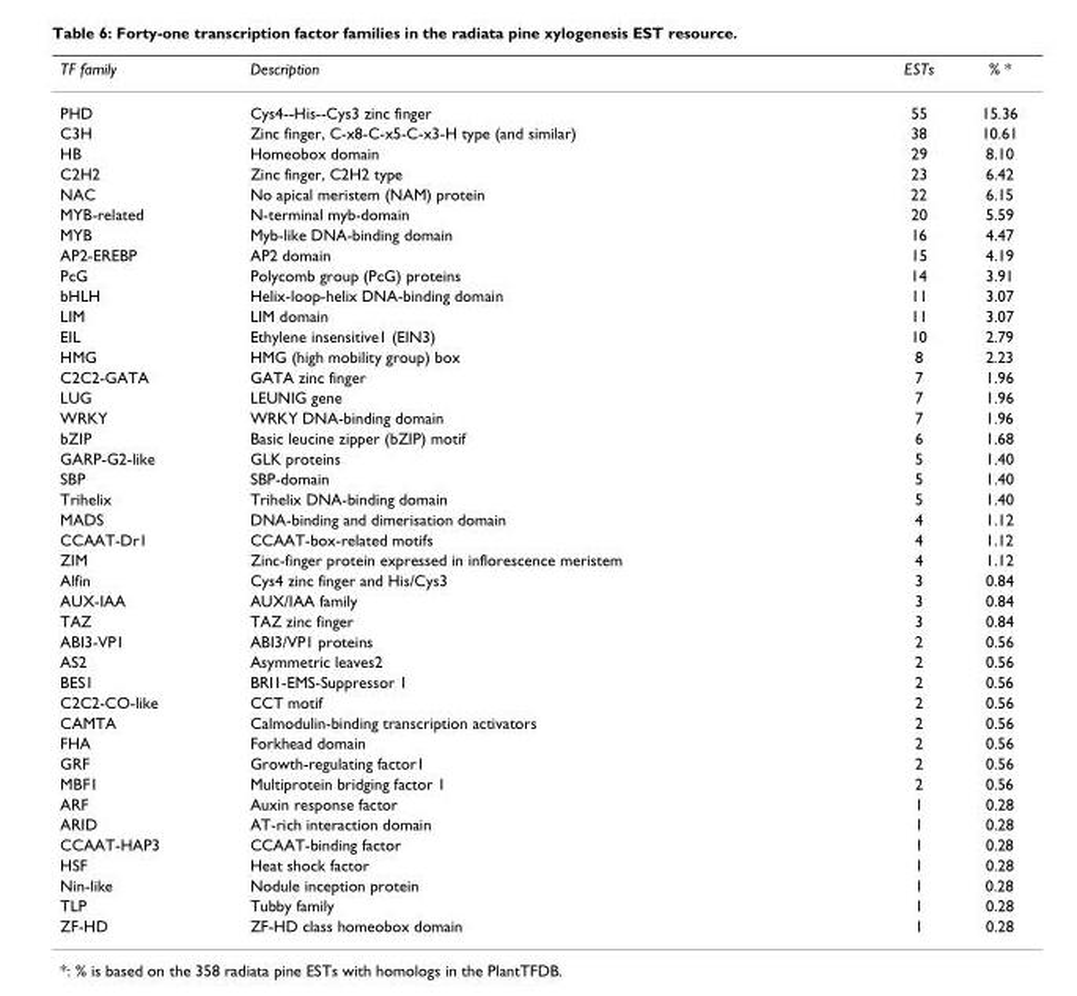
<table><thead><tr><td>TF family</td><td>Description</td><td>ESTs</td><td>% *</td></tr></thead><tbody><tr><td>PHD</td><td>Cys4--His--Cys3 zinc finger</td><td>55</td><td>15.36</td></tr><tr><td>C3H</td><td>Zinc finger, C-x8-C-x5-C-x3-H type (and similar)</td><td>38</td><td>10.61</td></tr><tr><td>HB</td><td>Homeobox domain</td><td>29</td><td>8.10</td></tr><tr><td>C2H2</td><td>Zinc finger, C2H2 type</td><td>23</td><td>6.42</td></tr><tr><td>NAC</td><td>No apical meristem (NAM) protein</td><td>22</td><td>6.15</td></tr><tr><td>MYB-related</td><td>N-terminal myb-domain</td><td>20</td><td>5.59</td></tr><tr><td>MYB</td><td>Myb-like DNA-binding domain</td><td>16</td><td>4.47</td></tr><tr><td>AP2-EREBP</td><td>AP2 domain</td><td>15</td><td>4.19</td></tr><tr><td>PcG</td><td>Polycomb group (PcG) proteins</td><td>14</td><td>3.91</td></tr><tr><td>bHLH</td><td>Helix-loop-helix DNA-binding domain</td><td>11</td><td>3.07</td></tr><tr><td>LIM</td><td>LIM domain</td><td>11</td><td>3.07</td></tr><tr><td>EIL</td><td>Ethylene insensitive1 (EIN3)</td><td>10</td><td>2.79</td></tr><tr><td>HMG</td><td>HMG (high mobility group) box</td><td>8</td><td>2.23</td></tr><tr><td>C2C2-GATA</td><td>GATA zinc finger</td><td>7</td><td>1.96</td></tr><tr><td>LUG</td><td>LEUNIG gene</td><td>7</td><td>1.96</td></tr><tr><td>WRKY</td><td>WRKY DNA-binding domain</td><td>7</td><td>1.96</td></tr><tr><td>bZIP</td><td>Basic leucine zipper (bZIP) motif</td><td>6</td><td>1.68</td></tr><tr><td>GARP-G2-like</td><td>GLK proteins</td><td>5</td><td>1.40</td></tr><tr><td>SBP</td><td>SBP-domain</td><td>5</td><td>1.40</td></tr><tr><td>Trihelix</td><td>Trihelix DNA-binding domain</td><td>5</td><td>1.40</td></tr><tr><td>MADS</td><td>DNA-binding and dimerisation domain</td><td>4</td><td>1.12</td></tr><tr><td>CCAAT-Dr1</td><td>CCAAT-box-related motifs</td><td>4</td><td>1.12</td></tr><tr><td>ZIM</td><td>Zinc-finger protein expressed in inflorescence meristem</td><td>4</td><td>1.12</td></tr><tr><td>Alfin</td><td>Cys4 zinc finger and His/Cys3</td><td>3</td><td>0.84</td></tr><tr><td>AUX-IAA</td><td>AUX/IAA family</td><td>3</td><td>0.84</td></tr><tr><td>TAZ</td><td>TAZ zinc finger</td><td>3</td><td>0.84</td></tr><tr><td>ABI3-VP1</td><td>ABI3/VP1 proteins</td><td>2</td><td>0.56</td></tr><tr><td>AS2</td><td>Asymmetric leaves2</td><td>2</td><td>0.56</td></tr><tr><td>BES1</td><td>BRI1-EMS-Suppressor 1</td><td>2</td><td>0.56</td></tr><tr><td>C2C2-CO-like</td><td>CCT motif</td><td>2</td><td>0.56</td></tr><tr><td>CAMTA</td><td>Calmodulin-binding transcription activators</td><td>2</td><td>0.56</td></tr><tr><td>FHA</td><td>Forkhead domain</td><td>2</td><td>0.56</td></tr><tr><td>GRF</td><td>Growth-regulating factor1</td><td>2</td><td>0.56</td></tr><tr><td>MBF1</td><td>Multiprotein bridging factor 1</td><td>2</td><td>0.56</td></tr><tr><td>ARF</td><td>Auxin response factor</td><td>1</td><td>0.28</td></tr><tr><td>ARID</td><td>AT-rich interaction domain</td><td>1</td><td>0.28</td></tr><tr><td>CCAAT-HAP3</td><td>CCAAT-binding factor</td><td>1</td><td>0.28</td></tr><tr><td>HSF</td><td>Heat shock factor</td><td>1</td><td>0.28</td></tr><tr><td>Nin-like</td><td>Nodule inception protein</td><td>1</td><td>0.28</td></tr><tr><td>TLP</td><td>Tubby family</td><td>1</td><td>0.28</td></tr><tr><td>ZF-HD</td><td>ZF-HD class homeobox domain</td><td>1</td><td>0.28</td></tr></tbody></table>